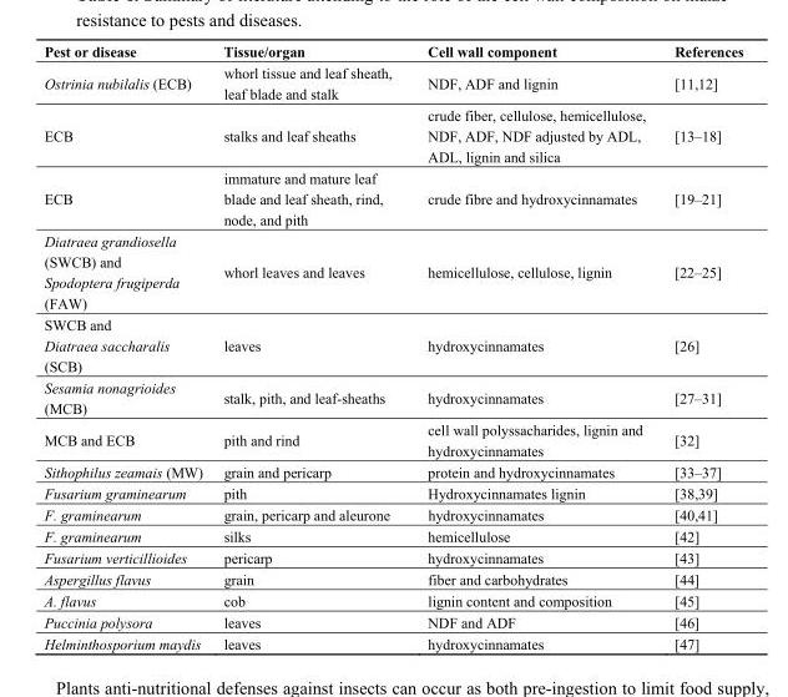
<table><thead><tr><td>Pest or disease</td><td>Tissue/organ</td><td>Cell wall component</td><td>References</td></tr></thead><tbody><tr><td>Ostrinia nubilalis (ECB)</td><td>whorl tissue and leaf sheath, leaf blade and stalk</td><td>NDF, ADF and lignin</td><td>[11,12]</td></tr><tr><td>ECB</td><td>stalks and leaf sheaths</td><td>crude fiber, cellulose, hemicellulose, NDF, ADF, NDF adjusted by ADL, ADL, lignin and silica</td><td>[13–18]</td></tr><tr><td>ECB</td><td>immature and mature leaf blade and leaf sheath, rind, node, and pith</td><td>crude fibre and hydroxycinnamates</td><td>[19–21]</td></tr><tr><td>Diatraea grandiosella (SWCB) and Spodoptera frugiperda (FAW)</td><td>whorl leaves and leaves</td><td>hemicellulose, cellulose, lignin</td><td>[22–25]</td></tr><tr><td>SWCB and Diatraea saccharalis (SCB)</td><td>leaves</td><td>hydroxycinnamates</td><td>[26]</td></tr><tr><td>Sesamia nonagrioides (MCB)</td><td>stalk, pith, and leaf-sheaths</td><td>hydroxycinnamates</td><td>[27–31]</td></tr><tr><td>MCB and ECB</td><td>pith and rind</td><td>cell wall polyssacharides, lignin and hydroxycinnamates</td><td>[32]</td></tr><tr><td>Sithophilus zeamais (MW)</td><td>grain and pericarp</td><td>protein and hydroxycinnamates</td><td>[33–37]</td></tr><tr><td>Fusarium graminearum</td><td>pith</td><td>Hydroxycinnamates lignin</td><td>[38,39]</td></tr><tr><td>F. graminearum</td><td>grain, pericarp and aleurone</td><td>hydroxycinnamates</td><td>[40,41]</td></tr><tr><td>F. graminearum</td><td>silks</td><td>hemicellulose</td><td>[42]</td></tr><tr><td>Fusarium verticillioides</td><td>pericarp</td><td>hydroxycinnamates</td><td>[43]</td></tr><tr><td>Aspergillus flavus</td><td>grain</td><td>fiber and carbohydrates</td><td>[44]</td></tr><tr><td>A. flavus</td><td>cob</td><td>lignin content and composition</td><td>[45]</td></tr><tr><td>Puccinia polysora</td><td>leaves</td><td>NDF and ADF</td><td>[46]</td></tr><tr><td>Helminthosporium maydis</td><td>leaves</td><td>hydroxycinnamates</td><td>[47]</td></tr></tbody></table>